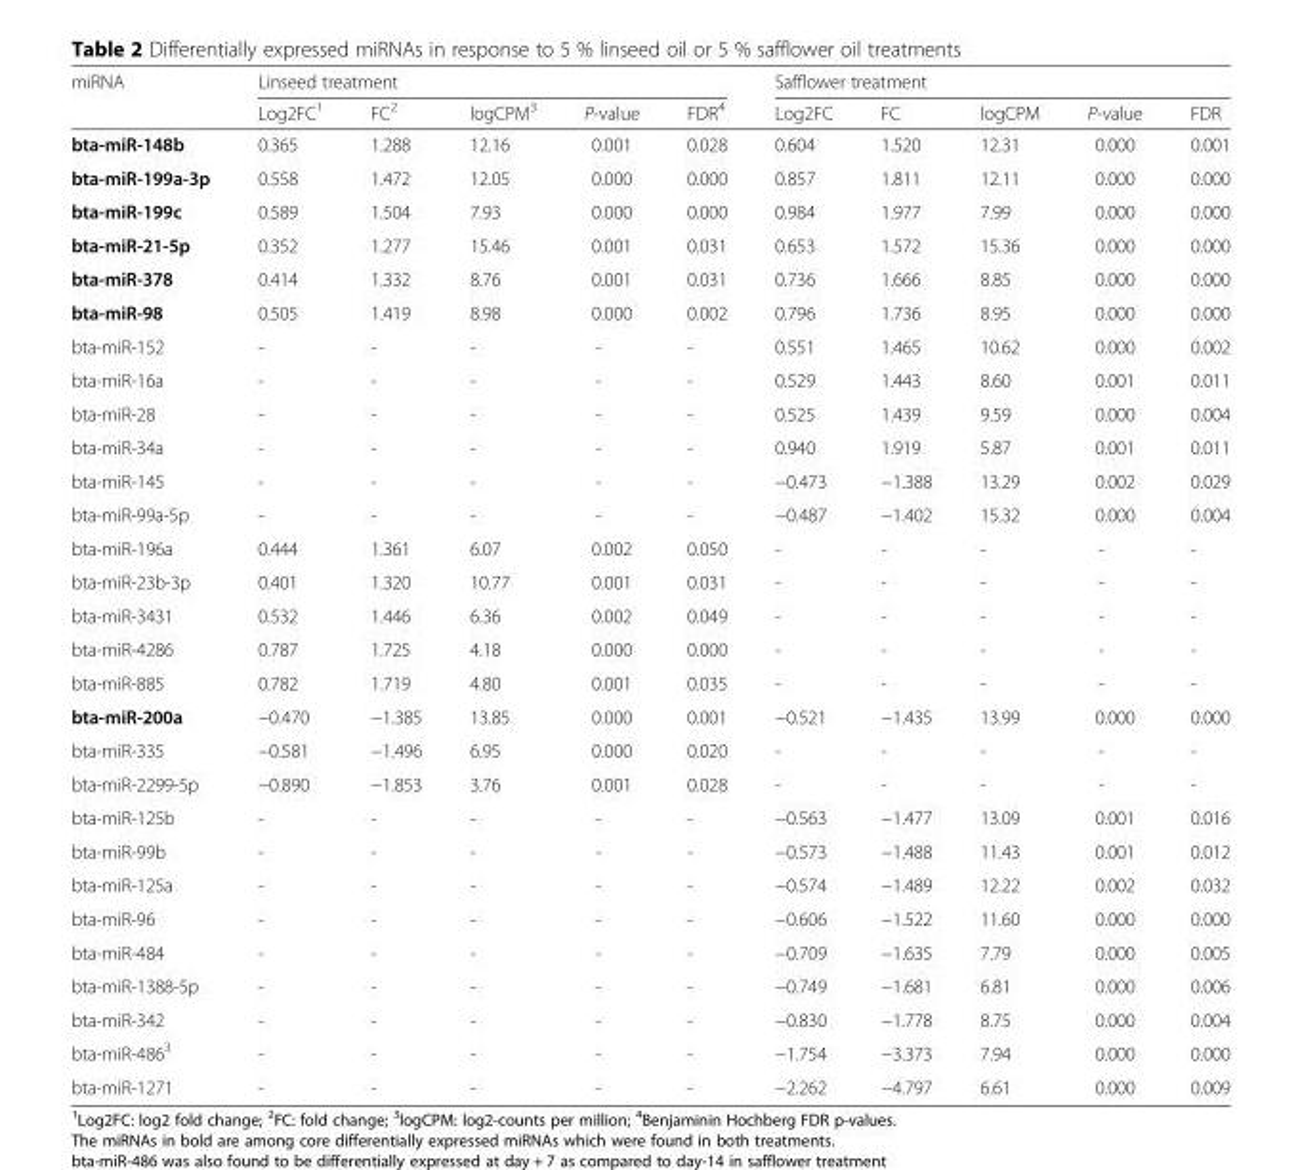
<table><thead><tr><td rowspan="2">miRNA</td><td colspan="5">Linseed treatment</td><td colspan="5">Safflower treatment</td></tr><tr><td>Log2FC<sup>1</sup></td><td>FC<sup>2</sup></td><td>logCPM<sup>3</sup></td><td>P-value</td><td>FDR<sup>4</sup></td><td>Log2FC</td><td>FC</td><td>logCPM</td><td>P-value</td><td>FDR</td></tr></thead><tbody><tr><td>bta-miR-148b</td><td>0.365</td><td>1.288</td><td>12.16</td><td>0.001</td><td>0.028</td><td>0.604</td><td>1.520</td><td>12.31</td><td>0.000</td><td>0.001</td></tr><tr><td>bta-miR-199a-3p</td><td>0.558</td><td>1.472</td><td>12.05</td><td>0.000</td><td>0.000</td><td>0.857</td><td>1.811</td><td>12.11</td><td>0.000</td><td>0.000</td></tr><tr><td>bta-miR-199c</td><td>0.589</td><td>1.504</td><td>7.93</td><td>0.000</td><td>0.000</td><td>0.984</td><td>1.977</td><td>7.99</td><td>0.000</td><td>0.000</td></tr><tr><td>bta-miR-21-5p</td><td>0.352</td><td>1.277</td><td>15.46</td><td>0.001</td><td>0.031</td><td>0.653</td><td>1.572</td><td>15.36</td><td>0.000</td><td>0.000</td></tr><tr><td>bta-miR-378</td><td>0.414</td><td>1.332</td><td>8.76</td><td>0.001</td><td>0.031</td><td>0.736</td><td>1.666</td><td>8.85</td><td>0.000</td><td>0.000</td></tr><tr><td>bta-miR-98</td><td>0.505</td><td>1.419</td><td>8.98</td><td>0.000</td><td>0.002</td><td>0.796</td><td>1.736</td><td>8.95</td><td>0.000</td><td>0.000</td></tr><tr><td>bta-miR-152</td><td>-</td><td>-</td><td>-</td><td>-</td><td>-</td><td>0.551</td><td>1.465</td><td>10.62</td><td>0.000</td><td>0.002</td></tr><tr><td>bta-miR-16a</td><td>-</td><td>-</td><td>-</td><td>-</td><td>-</td><td>0.529</td><td>1.443</td><td>8.60</td><td>0.001</td><td>0.011</td></tr><tr><td>bta-miR-28</td><td>-</td><td>-</td><td>-</td><td>-</td><td>-</td><td>0.525</td><td>1.439</td><td>9.59</td><td>0.000</td><td>0.004</td></tr><tr><td>bta-miR-34a</td><td>-</td><td>-</td><td>-</td><td>-</td><td>-</td><td>0.940</td><td>1.919</td><td>5.87</td><td>0.001</td><td>0.011</td></tr><tr><td>bta-miR-145</td><td>-</td><td>-</td><td>-</td><td>-</td><td>-</td><td>−0.473</td><td>−1.388</td><td>13.29</td><td>0.002</td><td>0.029</td></tr><tr><td>bta-miR-99a-5p</td><td>-</td><td>-</td><td>-</td><td>-</td><td>-</td><td>−0.487</td><td>−1.402</td><td>15.32</td><td>0.000</td><td>0.004</td></tr><tr><td>bta-miR-196a</td><td>0.444</td><td>1.361</td><td>6.07</td><td>0.002</td><td>0.050</td><td>-</td><td>-</td><td>-</td><td>-</td><td>-</td></tr><tr><td>bta-miR-23b-3p</td><td>0.401</td><td>1.320</td><td>10.77</td><td>0.001</td><td>0.031</td><td>-</td><td>-</td><td>-</td><td>-</td><td>-</td></tr><tr><td>bta-miR-3431</td><td>0.532</td><td>1.446</td><td>6.36</td><td>0.002</td><td>0.049</td><td>-</td><td>-</td><td>-</td><td>-</td><td>-</td></tr><tr><td>bta-miR-4286</td><td>0.787</td><td>1.725</td><td>4.18</td><td>0.000</td><td>0.000</td><td>-</td><td>-</td><td>-</td><td>-</td><td>-</td></tr><tr><td>bta-miR-885</td><td>0.782</td><td>1.719</td><td>4.80</td><td>0.001</td><td>0.035</td><td>-</td><td>-</td><td>-</td><td>-</td><td>-</td></tr><tr><td>bta-miR-200a</td><td>−0.470</td><td>−1.385</td><td>13.85</td><td>0.000</td><td>0.001</td><td>−0.521</td><td>−1.435</td><td>13.99</td><td>0.000</td><td>0.000</td></tr><tr><td>bta-miR-335</td><td>−0.581</td><td>−1.496</td><td>6.95</td><td>0.000</td><td>0.020</td><td>-</td><td>-</td><td>-</td><td>-</td><td>-</td></tr><tr><td>bta-miR-2299-5p</td><td>−0.890</td><td>−1.853</td><td>3.76</td><td>0.001</td><td>0.028</td><td>-</td><td>-</td><td>-</td><td>-</td><td>-</td></tr><tr><td>bta-miR-125b</td><td>-</td><td>-</td><td>-</td><td>-</td><td>-</td><td>−0.563</td><td>−1.477</td><td>13.09</td><td>0.001</td><td>0.016</td></tr><tr><td>bta-miR-99b</td><td>-</td><td>-</td><td>-</td><td>-</td><td>-</td><td>−0.573</td><td>−1.488</td><td>11.43</td><td>0.001</td><td>0.012</td></tr><tr><td>bta-miR-125a</td><td>-</td><td>-</td><td>-</td><td>-</td><td>-</td><td>−0.574</td><td>−1.489</td><td>12.22</td><td>0.002</td><td>0.032</td></tr><tr><td>bta-miR-96</td><td>-</td><td>-</td><td>-</td><td>-</td><td>-</td><td>−0.606</td><td>−1.522</td><td>11.60</td><td>0.000</td><td>0.000</td></tr><tr><td>bta-miR-484</td><td>-</td><td>-</td><td>-</td><td>-</td><td>-</td><td>−0.709</td><td>−1.635</td><td>7.79</td><td>0.000</td><td>0.005</td></tr><tr><td>bta-miR-1388-5p</td><td>-</td><td>-</td><td>-</td><td>-</td><td>-</td><td>−0.749</td><td>−1.681</td><td>6.81</td><td>0.000</td><td>0.006</td></tr><tr><td>bta-miR-342</td><td>-</td><td>-</td><td>-</td><td>-</td><td>-</td><td>−0.830</td><td>−1.778</td><td>8.75</td><td>0.000</td><td>0.004</td></tr><tr><td>bta-miR-486<sup>3</sup></td><td>-</td><td>-</td><td>-</td><td>-</td><td>-</td><td>−1.754</td><td>−3.373</td><td>7.94</td><td>0.000</td><td>0.000</td></tr><tr><td>bta-miR-1271</td><td>-</td><td>-</td><td>-</td><td>-</td><td>-</td><td>−2.262</td><td>−4.797</td><td>6.61</td><td>0.000</td><td>0.009</td></tr></tbody></table>